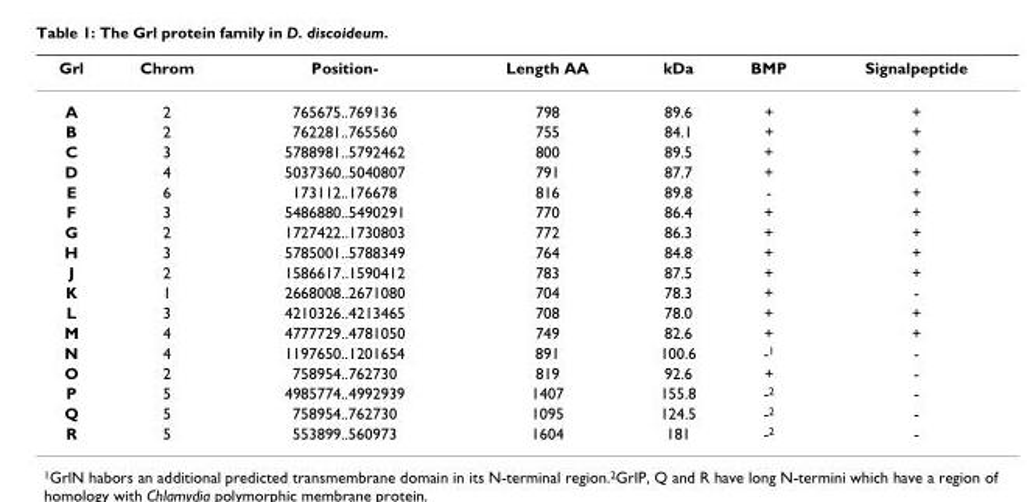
<table><thead><tr><td>Grl</td><td>Chrom</td><td>Position-</td><td>Length AA</td><td>kDa</td><td>BMP</td><td>Signalpeptide</td></tr></thead><tbody><tr><td>A</td><td>2</td><td>765675..769136</td><td>798</td><td>89.6</td><td>+</td><td>+</td></tr><tr><td>B</td><td>2</td><td>762281..765560</td><td>755</td><td>84.1</td><td>+</td><td>+</td></tr><tr><td>C</td><td>3</td><td>5788981..5792462</td><td>800</td><td>89.5</td><td>+</td><td>+</td></tr><tr><td>D</td><td>4</td><td>5037360..5040807</td><td>791</td><td>87.7</td><td>+</td><td>+</td></tr><tr><td>E</td><td>6</td><td>173112..176678</td><td>816</td><td>89.8</td><td>-</td><td>+</td></tr><tr><td>F</td><td>3</td><td>5486880..5490291</td><td>770</td><td>86.4</td><td>+</td><td>+</td></tr><tr><td>G</td><td>2</td><td>1727422..1730803</td><td>772</td><td>86.3</td><td>+</td><td>+</td></tr><tr><td>H</td><td>3</td><td>5785001..5788349</td><td>764</td><td>84.8</td><td>+</td><td>+</td></tr><tr><td>J</td><td>2</td><td>1586617..1590412</td><td>783</td><td>87.5</td><td>+</td><td>+</td></tr><tr><td>K</td><td>1</td><td>2668008..2671080</td><td>704</td><td>78.3</td><td>+</td><td>-</td></tr><tr><td>L</td><td>3</td><td>4210326..4213465</td><td>708</td><td>78.0</td><td>+</td><td>+</td></tr><tr><td>M</td><td>4</td><td>4777729..4781050</td><td>749</td><td>82.6</td><td>+</td><td>+</td></tr><tr><td>N</td><td>4</td><td>1197650..1201654</td><td>891</td><td>100.6</td><td>-<sup>1</sup></td><td>-</td></tr><tr><td>O</td><td>2</td><td>758954..762730</td><td>819</td><td>92.6</td><td>+</td><td>-</td></tr><tr><td>P</td><td>5</td><td>4985774..4992939</td><td>1407</td><td>155.8</td><td>-<sup>2</sup></td><td>-</td></tr><tr><td>Q</td><td>5</td><td>758954..762730</td><td>1095</td><td>124.5</td><td>-<sup>2</sup></td><td>-</td></tr><tr><td>R</td><td>5</td><td>553899..560973</td><td>1604</td><td>181</td><td>-<sup>2</sup></td><td>-</td></tr></tbody></table>